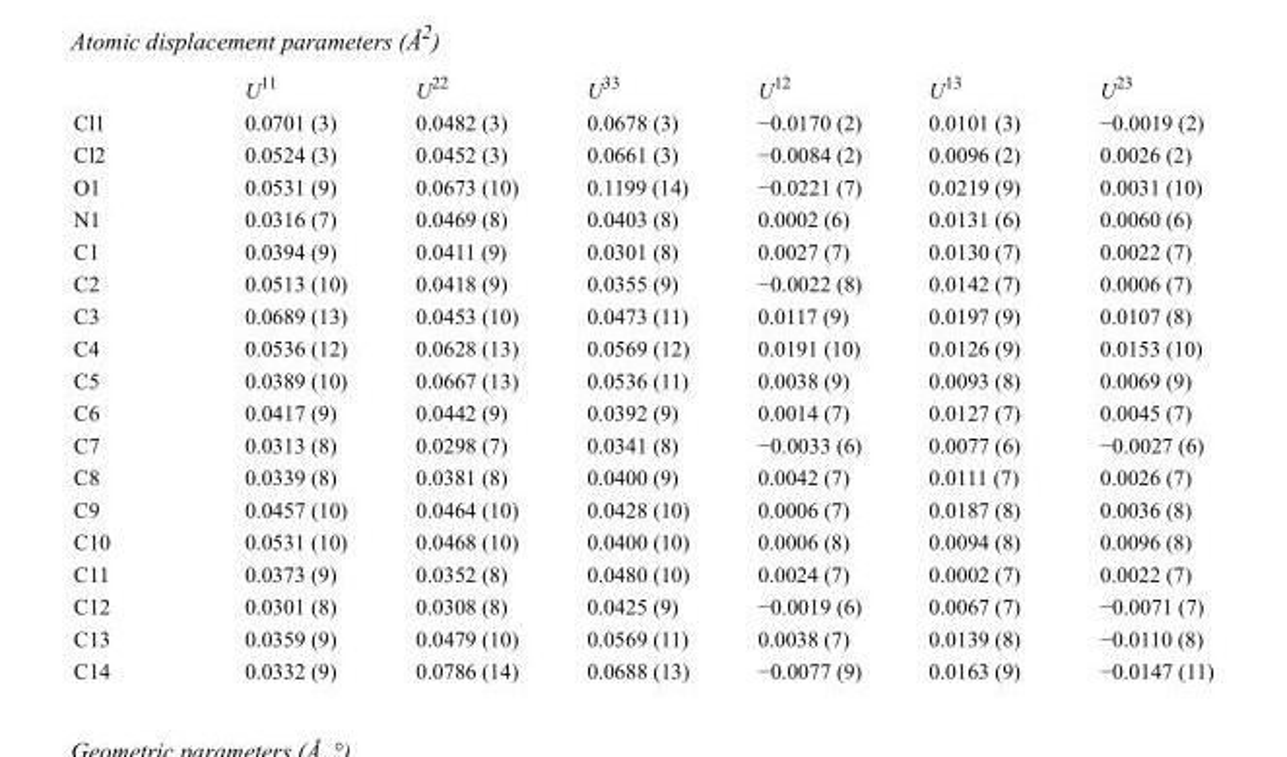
<table><thead><tr><td></td><td>U<sup>11</sup></td><td>U<sup>22</sup></td><td>U<sup>33</sup></td><td>U<sup>12</sup></td><td>U<sup>13</sup></td><td>U<sup>23</sup></td></tr></thead><tbody><tr><td>Cl1</td><td>0.0701 (3)</td><td>0.0482 (3)</td><td>0.0678 (3)</td><td>−0.0170 (2)</td><td>0.0101 (3)</td><td>−0.0019 (2)</td></tr><tr><td>Cl2</td><td>0.0524 (3)</td><td>0.0452 (3)</td><td>0.0661 (3)</td><td>−0.0084 (2)</td><td>0.0096 (2)</td><td>0.0026 (2)</td></tr><tr><td>O1</td><td>0.0531 (9)</td><td>0.0673 (10)</td><td>0.1199 (14)</td><td>−0.0221 (7)</td><td>0.0219 (9)</td><td>0.0031 (10)</td></tr><tr><td>N1</td><td>0.0316 (7)</td><td>0.0469 (8)</td><td>0.0403 (8)</td><td>0.0002 (6)</td><td>0.0131 (6)</td><td>0.0060 (6)</td></tr><tr><td>C1</td><td>0.0394 (9)</td><td>0.0411 (9)</td><td>0.0301 (8)</td><td>0.0027 (7)</td><td>0.0130 (7)</td><td>0.0022 (7)</td></tr><tr><td>C2</td><td>0.0513 (10)</td><td>0.0418 (9)</td><td>0.0355 (9)</td><td>−0.0022 (8)</td><td>0.0142 (7)</td><td>0.0006 (7)</td></tr><tr><td>C3</td><td>0.0689 (13)</td><td>0.0453 (10)</td><td>0.0473 (11)</td><td>0.0117 (9)</td><td>0.0197 (9)</td><td>0.0107 (8)</td></tr><tr><td>C4</td><td>0.0536 (12)</td><td>0.0628 (13)</td><td>0.0569 (12)</td><td>0.0191 (10)</td><td>0.0126 (9)</td><td>0.0153 (10)</td></tr><tr><td>C5</td><td>0.0389 (10)</td><td>0.0667 (13)</td><td>0.0536 (11)</td><td>0.0038 (9)</td><td>0.0093 (8)</td><td>0.0069 (9)</td></tr><tr><td>C6</td><td>0.0417 (9)</td><td>0.0442 (9)</td><td>0.0392 (9)</td><td>0.0014 (7)</td><td>0.0127 (7)</td><td>0.0045 (7)</td></tr><tr><td>C7</td><td>0.0313 (8)</td><td>0.0298 (7)</td><td>0.0341 (8)</td><td>−0.0033 (6)</td><td>0.0077 (6)</td><td>−0.0027 (6)</td></tr><tr><td>C8</td><td>0.0339 (8)</td><td>0.0381 (8)</td><td>0.0400 (9)</td><td>0.0042 (7)</td><td>0.0111 (7)</td><td>0.0026 (7)</td></tr><tr><td>C9</td><td>0.0457 (10)</td><td>0.0464 (10)</td><td>0.0428 (10)</td><td>0.0006 (7)</td><td>0.0187 (8)</td><td>0.0036 (8)</td></tr><tr><td>C10</td><td>0.0531 (10)</td><td>0.0468 (10)</td><td>0.0400 (10)</td><td>0.0006 (8)</td><td>0.0094 (8)</td><td>0.0096 (8)</td></tr><tr><td>C11</td><td>0.0373 (9)</td><td>0.0352 (8)</td><td>0.0480 (10)</td><td>0.0024 (7)</td><td>0.0002 (7)</td><td>0.0022 (7)</td></tr><tr><td>C12</td><td>0.0301 (8)</td><td>0.0308 (8)</td><td>0.0425 (9)</td><td>−0.0019 (6)</td><td>0.0067 (7)</td><td>−0.0071 (7)</td></tr><tr><td>C13</td><td>0.0359 (9)</td><td>0.0479 (10)</td><td>0.0569 (11)</td><td>0.0038 (7)</td><td>0.0139 (8)</td><td>−0.0110 (8)</td></tr><tr><td>C14</td><td>0.0332 (9)</td><td>0.0786 (14)</td><td>0.0688 (13)</td><td>−0.0077 (9)</td><td>0.0163 (9)</td><td>−0.0147 (11)</td></tr></tbody></table>